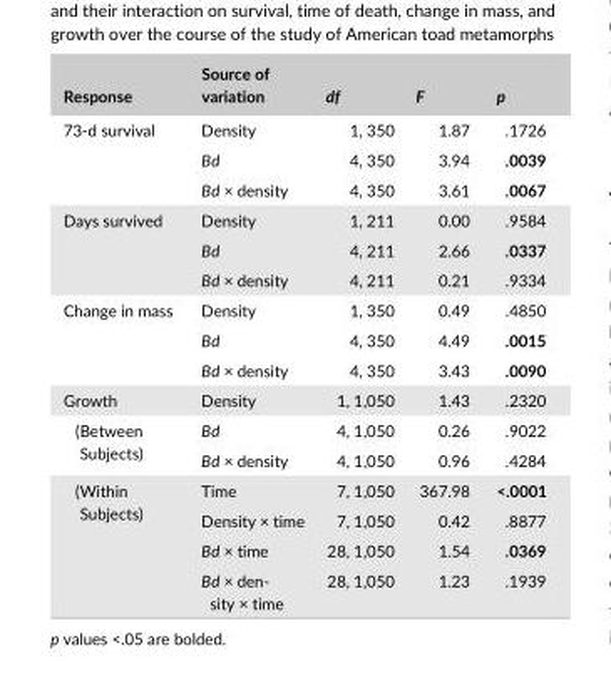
<table><thead><tr><td>Response</td><td>Source of variation</td><td>df</td><td>F</td><td>p</td></tr></thead><tbody><tr><td rowspan="3">73- d survival</td><td>Density</td><td>1, 350</td><td>1.87</td><td>.1726</td></tr><tr><td>Bd</td><td>4, 350</td><td>3.94</td><td>.0039</td></tr><tr><td>Bd × density</td><td>4, 350</td><td>3.61</td><td>.0067</td></tr><tr><td rowspan="3">Days survived</td><td>Density</td><td>1, 211</td><td>0.00</td><td>.9584</td></tr><tr><td>Bd</td><td>4, 211</td><td>2.66</td><td>.0337</td></tr><tr><td>Bd × density</td><td>4, 211</td><td>0.21</td><td>.9334</td></tr><tr><td rowspan="3">Change in mass</td><td>Density</td><td>1, 350</td><td>0.49</td><td>.4850</td></tr><tr><td>Bd</td><td>4, 350</td><td>4.49</td><td>.0015</td></tr><tr><td>Bd × density</td><td>4, 350</td><td>3.43</td><td>.0090</td></tr><tr><td>Growth</td><td>Density</td><td>1, 1,050</td><td>1.43</td><td>.2320</td></tr><tr><td rowspan="2">( Between Subjects)</td><td>Bd</td><td>4, 1,050</td><td>0.26</td><td>.9022</td></tr><tr><td>Bd × density</td><td>4, 1,050</td><td>0.96</td><td>.4284</td></tr><tr><td rowspan="4">( Within Subjects)</td><td>Time</td><td>7, 1,050</td><td>367.98</td><td>&lt;.0001</td></tr><tr><td>Density × time</td><td>7, 1,050</td><td>0.42</td><td>.8877</td></tr><tr><td>Bd × time</td><td>28, 1,050</td><td>1.54</td><td>.0369</td></tr><tr><td>Bd × den- sity × time</td><td>28, 1,050</td><td>1.23</td><td>.1939</td></tr></tbody></table>